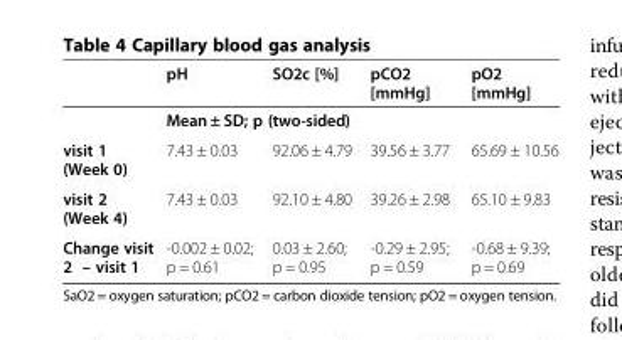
<table><thead><tr><td></td><td>pH</td><td>SO2c [%]</td><td>pCO2 [mmHg]</td><td>pO2 [mmHg]</td></tr></thead><tbody><tr><td></td><td colspan="4">Mean ± SD; p (two-sided)</td></tr><tr><td>visit 1 (Week 0)</td><td>7.43 ± 0.03</td><td>92.06 ± 4.79</td><td>39.56 ± 3.77</td><td>65.69 ± 10.56</td></tr><tr><td>visit 2 (Week 4)</td><td>7.43 ± 0.03</td><td>92.10 ± 4.80</td><td>39.26 ± 2.98</td><td>65.10 ± 9.83</td></tr><tr><td>Change visit 2 – visit 1</td><td>-0.002 ± 0.02; p = 0.61</td><td>0.03 ± 2.60; p = 0.95</td><td>-0.29 ± 2.95; p = 0.59</td><td>-0.68 ± 9.39; p = 0.69</td></tr></tbody></table>